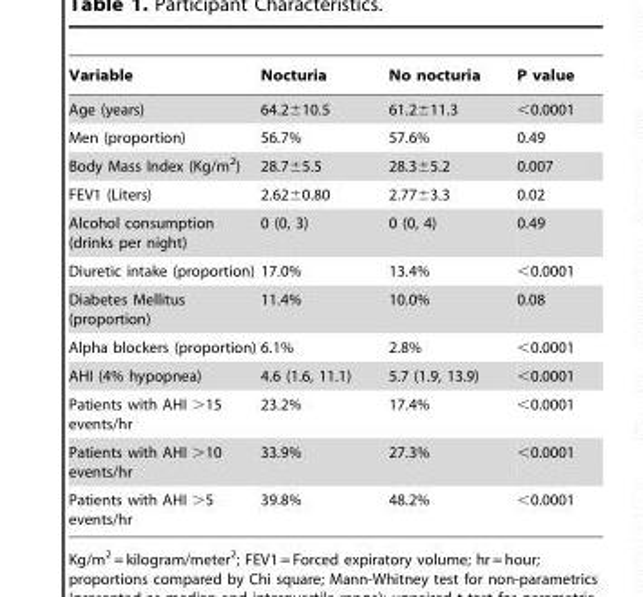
<table><thead><tr><td>Variable</td><td>Nocturia</td><td>No nocturia</td><td>P value</td></tr></thead><tbody><tr><td>Age (years)</td><td>64.2±10.5</td><td>61.2±11.3</td><td>&lt;0.0001</td></tr><tr><td>Men (proportion)</td><td>56.7%</td><td>57.6%</td><td>0.49</td></tr><tr><td>Body Mass Index (Kg/m<sup>2</sup>)</td><td>28.7±5.5</td><td>28.3±5.2</td><td>0.007</td></tr><tr><td>FEV1 (Liters)</td><td>2.62±0.80</td><td>2.77±3.3</td><td>0.02</td></tr><tr><td>Alcohol consumption (drinks per night)</td><td>0 (0, 3)</td><td>0 (0, 4)</td><td>0.49</td></tr><tr><td>Diuretic intake (proportion)</td><td>17.0%</td><td>13.4%</td><td>&lt;0.0001</td></tr><tr><td>Diabetes Mellitus (proportion)</td><td>11.4%</td><td>10.0%</td><td>0.08</td></tr><tr><td>Alpha blockers (proportion)</td><td>6.1%</td><td>2.8%</td><td>&lt;0.0001</td></tr><tr><td>AHI (4% hypopnea)</td><td>4.6 (1.6, 11.1)</td><td>5.7 (1.9, 13.9)</td><td>&lt;0.0001</td></tr><tr><td>Patients with AHI &gt;15 events/hr</td><td>23.2%</td><td>17.4%</td><td>&lt;0.0001</td></tr><tr><td>Patients with AHI &gt;10 events/hr</td><td>33.9%</td><td>27.3%</td><td>&lt;0.0001</td></tr><tr><td>Patients with AHI &gt;5 events/hr</td><td>39.8%</td><td>48.2%</td><td>&lt;0.0001</td></tr></tbody></table>